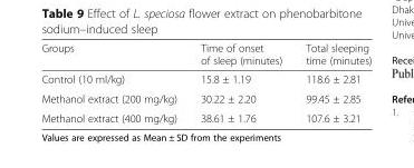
<table><thead><tr><td>Groups</td><td>Time of onset of sleep (minutes)</td><td>Total sleeping time (minutes)</td></tr></thead><tbody><tr><td>Control (10 ml/kg)</td><td>15.8 ± 1.19</td><td>118.6 ± 2.81</td></tr><tr><td>Methanol extract (200 mg/kg)</td><td>30.22 ± 2.20</td><td>99.45 ± 2.85</td></tr><tr><td>Methanol extract (400 mg/kg)</td><td>38.61 ± 1.76</td><td>107.6 ± 3.21</td></tr></tbody></table>